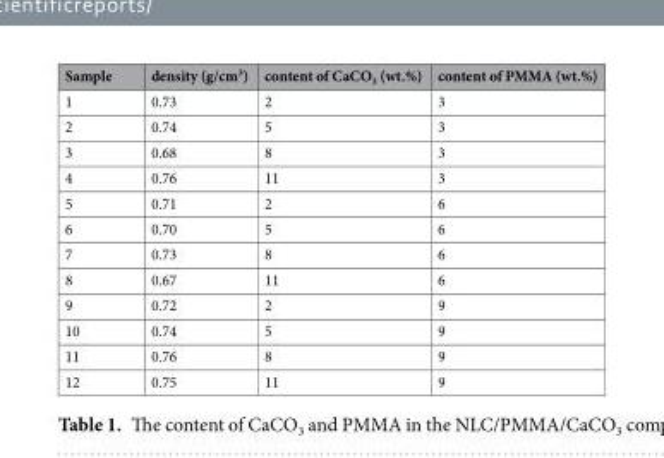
<table><thead><tr><td>Sample</td><td>density (g/cm<sup>3</sup>)</td><td>content of CaCO<sub>3</sub> (wt.%)</td><td>content of PMMA (wt.%)</td></tr></thead><tbody><tr><td>1</td><td>0.73</td><td>2</td><td>3</td></tr><tr><td>2</td><td>0.74</td><td>5</td><td>3</td></tr><tr><td>3</td><td>0.68</td><td>8</td><td>3</td></tr><tr><td>4</td><td>0.76</td><td>11</td><td>3</td></tr><tr><td>5</td><td>0.71</td><td>2</td><td>6</td></tr><tr><td>6</td><td>0.70</td><td>5</td><td>6</td></tr><tr><td>7</td><td>0.73</td><td>8</td><td>6</td></tr><tr><td>8</td><td>0.67</td><td>11</td><td>6</td></tr><tr><td>9</td><td>0.72</td><td>2</td><td>9</td></tr><tr><td>10</td><td>0.74</td><td>5</td><td>9</td></tr><tr><td>11</td><td>0.76</td><td>8</td><td>9</td></tr><tr><td>12</td><td>0.75</td><td>11</td><td>9</td></tr></tbody></table>